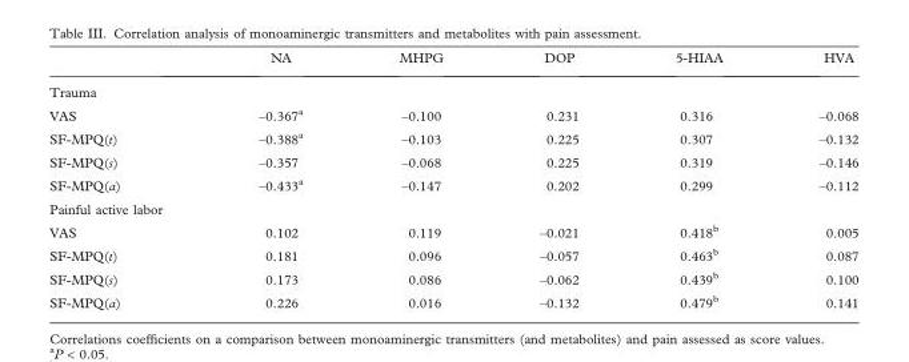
<table><thead><tr><td></td><td>NA</td><td>MHPG</td><td>DOP</td><td>5-HIAA</td><td>HVA</td></tr></thead><tbody><tr><td colspan="6">Trauma</td></tr><tr><td>VAS</td><td>–0.367<sup>a</sup></td><td>–0.100</td><td>0.231</td><td>0.316</td><td>–0.068</td></tr><tr><td>SF-MPQ(t)</td><td>–0.388<sup>a</sup></td><td>–0.103</td><td>0.225</td><td>0.307</td><td>–0.132</td></tr><tr><td>SF-MPQ(s)</td><td>–0.357</td><td>–0.068</td><td>0.225</td><td>0.319</td><td>–0.146</td></tr><tr><td>SF-MPQ(a)</td><td>–0.433<sup>a</sup></td><td>–0.147</td><td>0.202</td><td>0.299</td><td>–0.112</td></tr><tr><td colspan="6">Painful active labor</td></tr><tr><td>VAS</td><td>0.102</td><td>0.119</td><td>–0.021</td><td>0.418<sup>b</sup></td><td>0.005</td></tr><tr><td>SF-MPQ(t)</td><td>0.181</td><td>0.096</td><td>–0.057</td><td>0.463<sup>b</sup></td><td>0.087</td></tr><tr><td>SF-MPQ(s)</td><td>0.173</td><td>0.086</td><td>–0.062</td><td>0.439<sup>b</sup></td><td>0.100</td></tr><tr><td>SF-MPQ(a)</td><td>0.226</td><td>0.016</td><td>–0.132</td><td>0.479<sup>b</sup></td><td>0.141</td></tr></tbody></table>